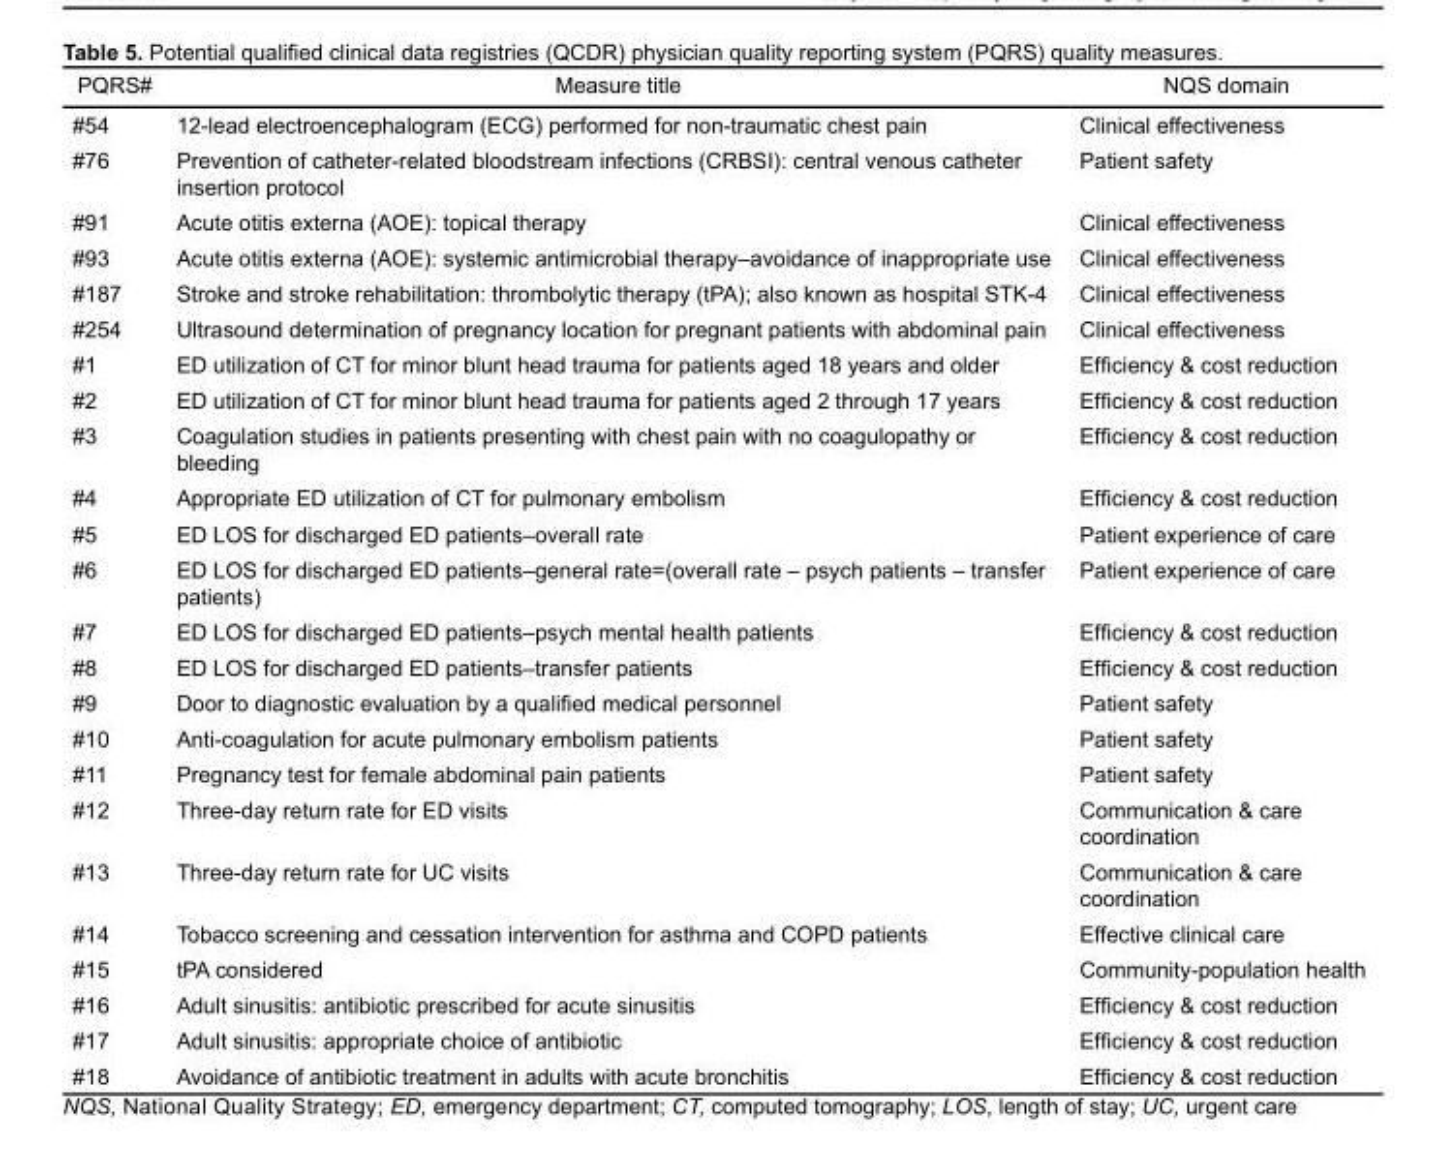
<table><thead><tr><td>PQRS#</td><td>Measure title</td><td>NQS domain</td></tr></thead><tbody><tr><td>#54</td><td>12-lead electroencephalogram (ECG) performed for non-traumatic chest pain</td><td>Clinical effectiveness</td></tr><tr><td>#76</td><td>Prevention of catheter-related bloodstream infections (CRBSI): central venous catheter insertion protocol</td><td>Patient safety</td></tr><tr><td>#91</td><td>Acute otitis externa (AOE): topical therapy</td><td>Clinical effectiveness</td></tr><tr><td>#93</td><td>Acute otitis externa (AOE): systemic antimicrobial therapy–avoidance of inappropriate use</td><td>Clinical effectiveness</td></tr><tr><td>#187</td><td>Stroke and stroke rehabilitation: thrombolytic therapy (tPA); also known as hospital STK-4</td><td>Clinical effectiveness</td></tr><tr><td>#254</td><td>Ultrasound determination of pregnancy location for pregnant patients with abdominal pain</td><td>Clinical effectiveness</td></tr><tr><td>#1</td><td>ED utilization of CT for minor blunt head trauma for patients aged 18 years and older</td><td>Efficiency &amp; cost reduction</td></tr><tr><td>#2</td><td>ED utilization of CT for minor blunt head trauma for patients aged 2 through 17 years</td><td>Efficiency &amp; cost reduction</td></tr><tr><td>#3</td><td>Coagulation studies in patients presenting with chest pain with no coagulopathy or bleeding</td><td>Efficiency &amp; cost reduction</td></tr><tr><td>#4</td><td>Appropriate ED utilization of CT for pulmonary embolism</td><td>Efficiency &amp; cost reduction</td></tr><tr><td>#5</td><td>ED LOS for discharged ED patients–overall rate</td><td>Patient experience of care</td></tr><tr><td>#6</td><td>ED LOS for discharged ED patients–general rate=(overall rate – psych patients – transfer patients)</td><td>Patient experience of care</td></tr><tr><td>#7</td><td>ED LOS for discharged ED patients–psych mental health patients</td><td>Efficiency &amp; cost reduction</td></tr><tr><td>#8</td><td>ED LOS for discharged ED patients–transfer patients</td><td>Efficiency &amp; cost reduction</td></tr><tr><td>#9</td><td>Door to diagnostic evaluation by a qualified medical personnel</td><td>Patient safety</td></tr><tr><td>#10</td><td>Anti-coagulation for acute pulmonary embolism patients</td><td>Patient safety</td></tr><tr><td>#11</td><td>Pregnancy test for female abdominal pain patients</td><td>Patient safety</td></tr><tr><td>#12</td><td>Three-day return rate for ED visits</td><td>Communication &amp; care coordination</td></tr><tr><td>#13</td><td>Three-day return rate for UC visits</td><td>Communication &amp; care coordination</td></tr><tr><td>#14</td><td>Tobacco screening and cessation intervention for asthma and COPD patients</td><td>Effective clinical care</td></tr><tr><td>#15</td><td>tPA considered</td><td>Community-population health</td></tr><tr><td>#16</td><td>Adult sinusitis: antibiotic prescribed for acute sinusitis</td><td>Efficiency &amp; cost reduction</td></tr><tr><td>#17</td><td>Adult sinusitis: appropriate choice of antibiotic</td><td>Efficiency &amp; cost reduction</td></tr><tr><td>#18</td><td>Avoidance of antibiotic treatment in adults with acute bronchitis</td><td>Efficiency &amp; cost reduction</td></tr></tbody></table>